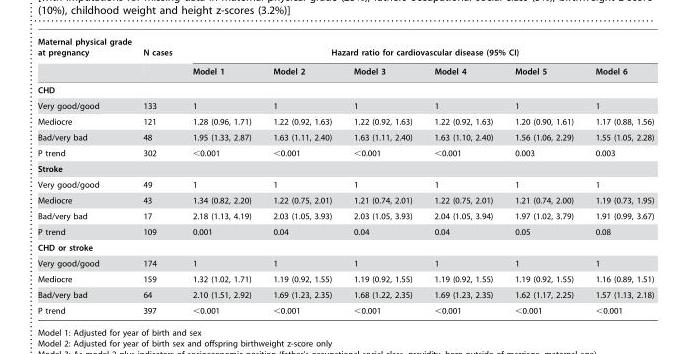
<table><thead><tr><td rowspan="2">Maternal physical grade at pregnancy</td><td rowspan="2">N cases</td><td colspan="6">Hazard ratio for cardiovascular disease (95% CI)</td></tr><tr><td>Model 1</td><td>Model 2</td><td>Model 3</td><td>Model 4</td><td>Model 5</td><td>Model 6</td></tr></thead><tbody><tr><td colspan="8">CHD</td></tr><tr><td>Very good/good</td><td>133</td><td>1</td><td>1</td><td>1</td><td>1</td><td>1</td><td>1</td></tr><tr><td>Mediocre</td><td>121</td><td>1.28 (0.96, 1.71)</td><td>1.22 (0.92, 1.63)</td><td>1.22 (0.92, 1.63)</td><td>1.22 (0.92, 1.63)</td><td>1.20 (0.90, 1.61)</td><td>1.17 (0.88, 1.56)</td></tr><tr><td>Bad/very bad</td><td>48</td><td>1.95 (1.33, 2.87)</td><td>1.63 (1.11, 2.40)</td><td>1.63 (1.11, 2.40)</td><td>1.63 (1.10, 2.40)</td><td>1.56 (1.06, 2.29)</td><td>1.55 (1.05, 2.28)</td></tr><tr><td>P trend</td><td>302</td><td>&lt;0.001</td><td>&lt;0.001</td><td>&lt;0.001</td><td>&lt;0.001</td><td>0.003</td><td>0.003</td></tr><tr><td colspan="8">Stroke</td></tr><tr><td>Very good/good</td><td>49</td><td>1</td><td>1</td><td>1</td><td>1</td><td>1</td><td>1</td></tr><tr><td>Mediocre</td><td>43</td><td>1.34 (0.82, 2.20)</td><td>1.22 (0.75, 2.01)</td><td>1.21 (0.74, 2.01)</td><td>1.22 (0.75, 2.01)</td><td>1.21 (0.74, 2.00)</td><td>1.19 (0.73, 1.95)</td></tr><tr><td>Bad/very bad</td><td>17</td><td>2.18 (1.13, 4.19)</td><td>2.03 (1.05, 3.93)</td><td>2.03 (1.05, 3.93)</td><td>2.04 (1.05, 3.94)</td><td>1.97 (1.02, 3.79)</td><td>1.91 (0.99, 3.67)</td></tr><tr><td>P trend</td><td>109</td><td>0.001</td><td>0.04</td><td>0.04</td><td>0.04</td><td>0.05</td><td>0.08</td></tr><tr><td colspan="8">CHD or stroke</td></tr><tr><td>Very good/good</td><td>174</td><td>1</td><td>1</td><td>1</td><td>1</td><td>1</td><td>1</td></tr><tr><td>Mediocre</td><td>159</td><td>1.32 (1.02, 1.71)</td><td>1.19 (0.92, 1.55)</td><td>1.19 (0.92, 1.55)</td><td>1.19 (0.92, 1.55)</td><td>1.19 (0.92, 1.55)</td><td>1.16 (0.89, 1.51)</td></tr><tr><td>Bad/very bad</td><td>64</td><td>2.10 (1.51, 2.92)</td><td>1.69 (1.23, 2.35)</td><td>1.68 (1.22, 2.35)</td><td>1.69 (1.23, 2.35)</td><td>1.62 (1.17, 2.25)</td><td>1.57 (1.13, 2.18)</td></tr><tr><td>P trend</td><td>397</td><td>&lt;0.001</td><td>&lt;0.001</td><td>&lt;0.001</td><td>&lt;0.001</td><td>&lt;0.001</td><td>&lt;0.001</td></tr></tbody></table>